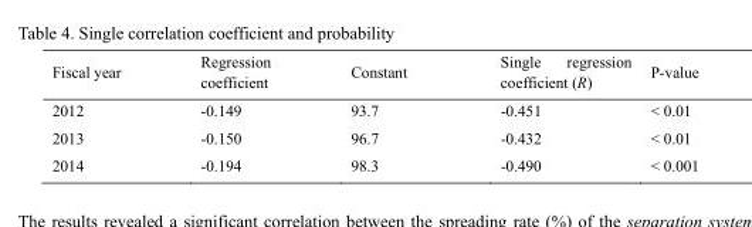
<table><thead><tr><td>Fiscal year</td><td>Regression coefficient</td><td>Constant</td><td>Single regression coefficient (R)</td><td>P-value</td></tr></thead><tbody><tr><td>2012</td><td>-0.149</td><td>93.7</td><td>-0.451</td><td>&lt; 0.01</td></tr><tr><td>2013</td><td>-0.150</td><td>96.7</td><td>-0.432</td><td>&lt; 0.01</td></tr><tr><td>2014</td><td>-0.194</td><td>98.3</td><td>-0.490</td><td>&lt; 0.001</td></tr></tbody></table>